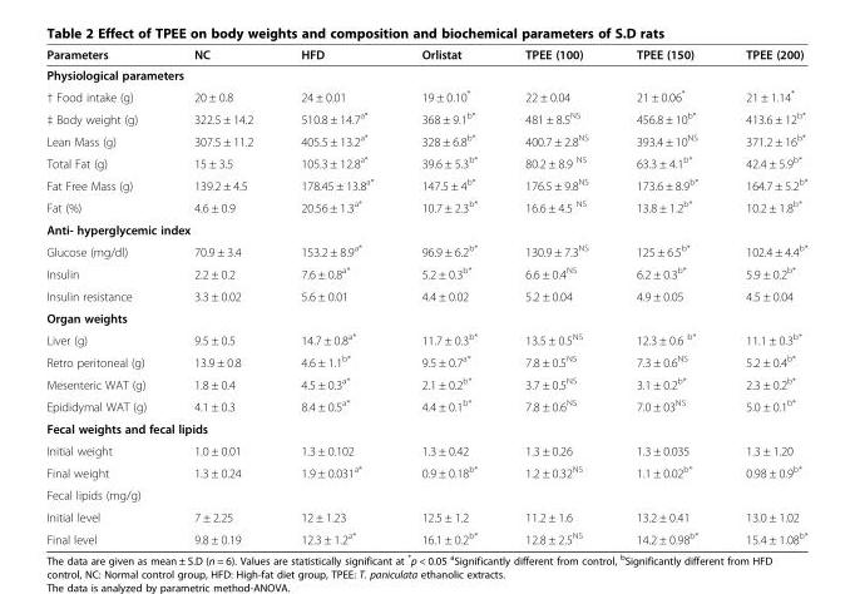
<table><thead><tr><td>Parameters</td><td>NC</td><td>HFD</td><td>Orlistat</td><td>TPEE (100)</td><td>TPEE (150)</td><td>TPEE (200)</td></tr></thead><tbody><tr><td colspan="7">Physiological parameters</td></tr><tr><td>† Food intake (g)</td><td>20 ± 0.8</td><td>24 ± 0.01</td><td>19 ± 0.10*</td><td>22 ± 0.04</td><td>21 ± 0.06*</td><td>21 ± 1.14*</td></tr><tr><td>‡ Body weight (g)</td><td>322.5 ± 14.2</td><td>510.8 ± 14.7<sup>a*</sup></td><td>368 ± 9.1<sup>b*</sup></td><td>481 ± 8.5<sup>NS</sup></td><td>456.8 ± 10<sup>b*</sup></td><td>413.6 ± 12<sup>b*</sup></td></tr><tr><td>Lean Mass (g)</td><td>307.5 ± 11.2</td><td>405.5 ± 13.2<sup>a*</sup></td><td>328 ± 6.8<sup>b*</sup></td><td>400.7 ± 2.8<sup>NS</sup></td><td>393.4 ± 10<sup>NS</sup></td><td>371.2 ± 16<sup>b*</sup></td></tr><tr><td>Total Fat (g)</td><td>15 ± 3.5</td><td>105.3 ± 12.8<sup>a*</sup></td><td>39.6 ± 5.3<sup>b*</sup></td><td>80.2 ± 8.9 <sup>NS</sup></td><td>63.3 ± 4.1<sup>b*</sup></td><td>42.4 ± 5.9<sup>b*</sup></td></tr><tr><td>Fat Free Mass (g)</td><td>139.2 ± 4.5</td><td>178.45 ± 13.8<sup>a*</sup></td><td>147.5 ± 4<sup>b*</sup></td><td>176.5 ± 9.8<sup>NS</sup></td><td>173.6 ± 8.9<sup>b*</sup></td><td>164.7 ± 5.2<sup>b*</sup></td></tr><tr><td>Fat (%)</td><td>4.6 ± 0.9</td><td>20.56 ± 1.3<sup>a*</sup></td><td>10.7 ± 2.3<sup>b*</sup></td><td>16.6 ± 4.5 <sup>NS</sup></td><td>13.8 ± 1.2<sup>b*</sup></td><td>10.2 ± 1.8<sup>b*</sup></td></tr><tr><td colspan="7">Anti- hyperglycemic index</td></tr><tr><td>Glucose (mg/dl)</td><td>70.9 ± 3.4</td><td>153.2 ± 8.9<sup>a*</sup></td><td>96.9 ± 6.2<sup>b*</sup></td><td>130.9 ± 7.3<sup>NS</sup></td><td>125 ± 6.5<sup>b*</sup></td><td>102.4 ± 4.4<sup>b*</sup></td></tr><tr><td>Insulin</td><td>2.2 ± 0.2</td><td>7.6 ± 0.8<sup>a*</sup></td><td>5.2 ± 0.3<sup>b*</sup></td><td>6.6 ± 0.4<sup>NS</sup></td><td>6.2 ± 0.3<sup>b*</sup></td><td>5.9 ± 0.2<sup>b*</sup></td></tr><tr><td>Insulin resistance</td><td>3.3 ± 0.02</td><td>5.6 ± 0.01</td><td>4.4 ± 0.02</td><td>5.2 ± 0.04</td><td>4.9 ± 0.05</td><td>4.5 ± 0.04</td></tr><tr><td colspan="7">Organ weights</td></tr><tr><td>Liver (g)</td><td>9.5 ± 0.5</td><td>14.7 ± 0.8<sup>a*</sup></td><td>11.7 ± 0.3<sup>b*</sup></td><td>13.5 ± 0.5<sup>NS</sup></td><td>12.3 ± 0.6 <sup>b*</sup></td><td>11.1 ± 0.3<sup>b*</sup></td></tr><tr><td>Retro peritoneal (g)</td><td>13.9 ± 0.8</td><td>4.6 ± 1.1<sup>b*</sup></td><td>9.5 ± 0.7<sup>a*</sup></td><td>7.8 ± 0.5<sup>NS</sup></td><td>7.3 ± 0.6<sup>NS</sup></td><td>5.2 ± 0.4<sup>b*</sup></td></tr><tr><td>Mesenteric WAT (g)</td><td>1.8 ± 0.4</td><td>4.5 ± 0.3<sup>a*</sup></td><td>2.1 ± 0.2<sup>b*</sup></td><td>3.7 ± 0.5<sup>NS</sup></td><td>3.1 ± 0.2<sup>b*</sup></td><td>2.3 ± 0.2<sup>b*</sup></td></tr><tr><td>Epididymal WAT (g)</td><td>4.1 ± 0.3</td><td>8.4 ± 0.5<sup>a*</sup></td><td>4.4 ± 0.1<sup>b*</sup></td><td>7.8 ± 0.6<sup>NS</sup></td><td>7.0 ± 03<sup>NS</sup></td><td>5.0 ± 0.1<sup>b*</sup></td></tr><tr><td colspan="7">Fecal weights and fecal lipids</td></tr><tr><td>Initial weight</td><td>1.0 ± 0.01</td><td>1.3 ± 0.102</td><td>1.3 ± 0.42</td><td>1.3 ± 0.26</td><td>1.3 ± 0.035</td><td>1.3 ± 1.20</td></tr><tr><td>Final weight</td><td>1.3 ± 0.24</td><td>1.9 ± 0.031<sup>a*</sup></td><td>0.9 ± 0.18<sup>b*</sup></td><td>1.2 ± 0.32<sup>NS</sup></td><td>1.1 ± 0.02<sup>b*</sup></td><td>0.98 ± 0.9<sup>b*</sup></td></tr><tr><td colspan="7">Fecal lipids (mg/g)</td></tr><tr><td>Initial level</td><td>7 ± 2.25</td><td>12 ± 1.23</td><td>12.5 ± 1.2</td><td>11.2 ± 1.6</td><td>13.2 ± 0.41</td><td>13.0 ± 1.02</td></tr><tr><td>Final level</td><td>9.8 ± 0.19</td><td>12.3 ± 1.2<sup>a*</sup></td><td>16.1 ± 0.2<sup>b*</sup></td><td>12.8 ± 2.5<sup>NS</sup></td><td>14.2 ± 0.98<sup>b*</sup></td><td>15.4 ± 1.08<sup>b*</sup></td></tr></tbody></table>